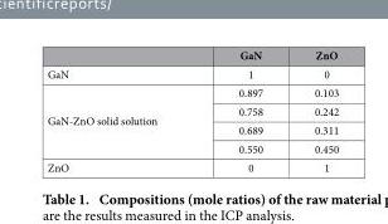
<table><thead><tr><td></td><td>GaN</td><td>ZnO</td></tr></thead><tbody><tr><td>GaN</td><td>1</td><td>0</td></tr><tr><td rowspan="4">GaN-ZnO solid solution</td><td>0.897</td><td>0.103</td></tr><tr><td>0.758</td><td>0.242</td></tr><tr><td>0.689</td><td>0.311</td></tr><tr><td>0.550</td><td>0.450</td></tr><tr><td>ZnO</td><td>0</td><td>1</td></tr></tbody></table>